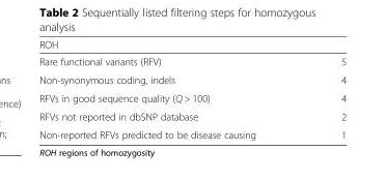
<table><thead><tr><td>ROH</td><td></td></tr></thead><tbody><tr><td>Rare functional variants (RFV)</td><td>5</td></tr><tr><td>Non-synonymous coding, indels</td><td>4</td></tr><tr><td>RFVs in good sequence quality (Q &gt; 100)</td><td>4</td></tr><tr><td>RFVs not reported in dbSNP database</td><td>2</td></tr><tr><td>Non-reported RFVs predicted to be disease causing</td><td>1</td></tr></tbody></table>